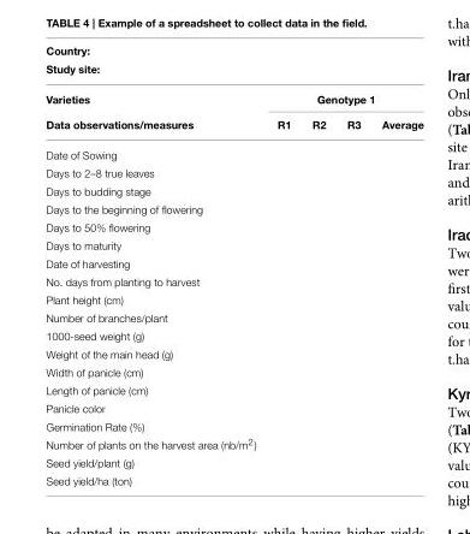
<table><thead><tr><td rowspan="2" colspan="5">Country: Study site:</td></tr><tr></tr><tr><td rowspan="2">Varieties Data observations/measures</td><td colspan="4">Genotype 1</td></tr><tr><td>R1</td><td>R2</td><td>R3</td><td>Average</td></tr></thead><tbody><tr><td colspan="5">Date of Sowing</td></tr><tr><td colspan="5">Days to 2–8 true leaves</td></tr><tr><td colspan="5">Days to budding stage</td></tr><tr><td colspan="5">Days to the beginning of flowering</td></tr><tr><td colspan="5">Days to 50% flowering</td></tr><tr><td colspan="5">Days to maturity</td></tr><tr><td colspan="5">Date of harvesting</td></tr><tr><td colspan="5">No. days from planting to harvest</td></tr><tr><td colspan="5">Plant height (cm)</td></tr><tr><td colspan="5">Number of branches/plant</td></tr><tr><td colspan="5">1000-seed weight (g)</td></tr><tr><td colspan="5">Weight of the main head (g)</td></tr><tr><td colspan="5">Width of panicle (cm)</td></tr><tr><td colspan="5">Length of panicle (cm)</td></tr><tr><td colspan="5">Panicle color</td></tr><tr><td colspan="5">Germination Rate (%)</td></tr><tr><td colspan="5">Number of plants on the harvest area (nb/m2)</td></tr><tr><td colspan="5">Seed yield/plant (g)</td></tr><tr><td>Seed yield/ha (ton)</td><td></td><td></td><td></td><td></td></tr></tbody></table>